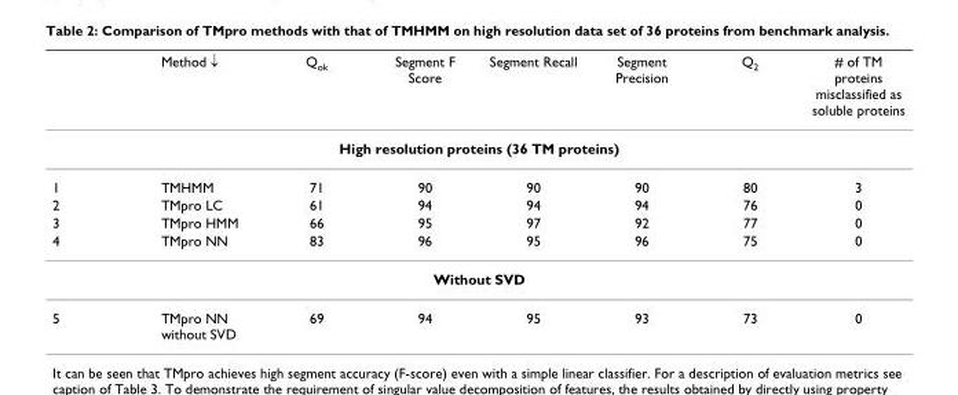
<table><thead><tr><td></td><td>Method ↓</td><td>Q<sub>ok</sub></td><td>Segment F Score</td><td>Segment Recall</td><td>Segment Precision</td><td>Q<sub>2</sub></td><td># of TM proteins misclassified as soluble proteins</td></tr></thead><tbody><tr><td colspan="8">High resolution proteins (36 TM proteins)</td></tr><tr><td>1</td><td>TMHMM</td><td>71</td><td>90</td><td>90</td><td>90</td><td>80</td><td>3</td></tr><tr><td>2</td><td>TMpro LC</td><td>61</td><td>94</td><td>94</td><td>94</td><td>76</td><td>0</td></tr><tr><td>3</td><td>TMpro HMM</td><td>66</td><td>95</td><td>97</td><td>92</td><td>77</td><td>0</td></tr><tr><td>4</td><td>TMpro NN</td><td>83</td><td>96</td><td>95</td><td>96</td><td>75</td><td>0</td></tr><tr><td colspan="8">Without SVD</td></tr><tr><td>5</td><td>TMpro NN without SVD</td><td>69</td><td>94</td><td>95</td><td>93</td><td>73</td><td>0</td></tr></tbody></table>